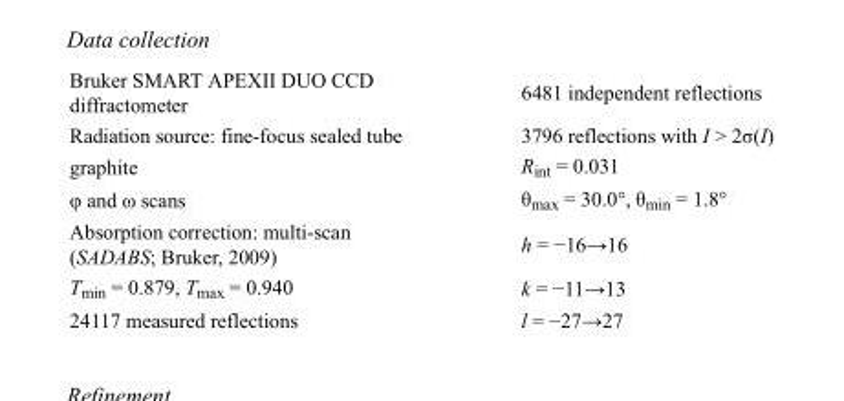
<table><tbody><tr><td>Bruker SMART APEXII DUO CCD diffractometer</td><td>6481 independent reflections</td></tr><tr><td>Radiation source: fine-focus sealed tube</td><td>3796 reflections with I &gt; 2σ(I)</td></tr><tr><td>graphite</td><td>R<sub>int</sub> = 0.031</td></tr><tr><td>φ and ω scans</td><td>θ<sub>max</sub> = 30.0°, θ<sub>min</sub> = 1.8°</td></tr><tr><td>Absorption correction: multi-scan (SADABS; Bruker, 2009)</td><td>h = −16→16</td></tr><tr><td>T<sub>min</sub> = 0.879, T<sub>max</sub> = 0.940</td><td>k = −11→13</td></tr><tr><td>24117 measured reflections</td><td>l = −27→27</td></tr></tbody></table>